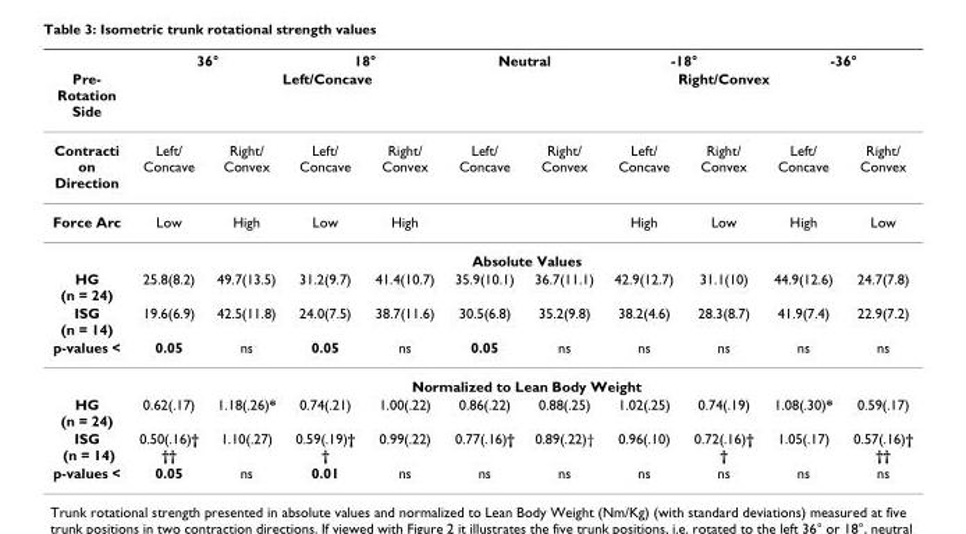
<table><thead><tr><td rowspan="3">Pre- Rotation Side Contracti on Direction</td><td colspan="2">36°</td><td colspan="2">18°</td><td colspan="2">Neutral</td><td colspan="2">-18°</td><td colspan="2">-36°</td></tr><tr><td colspan="5">Left/Concave</td><td colspan="5">Right/Convex</td></tr><tr><td>Left/ Concave</td><td>Right/ Convex</td><td>Left/ Concave</td><td>Right/ Convex</td><td>Left/ Concave</td><td>Right/ Convex</td><td>Left/ Concave</td><td>Right/ Convex</td><td>Left/ Concave</td><td>Right/ Convex</td></tr></thead><tbody><tr><td rowspan="2">Force Arc</td><td>Low</td><td>High</td><td>Low</td><td>High</td><td></td><td></td><td>High</td><td>Low</td><td>High</td><td>Low</td></tr><tr><td colspan="10">Absolute Values</td></tr><tr><td>HG (n = 24)</td><td>25.8(8.2)</td><td>49.7(13.5)</td><td>31.2(9.7)</td><td>41.4(10.7)</td><td>35.9(10.1)</td><td>36.7(11.1)</td><td>42.9(12.7)</td><td>31.1(10)</td><td>44.9(12.6)</td><td>24.7(7.8)</td></tr><tr><td>ISG (n = 14)</td><td>19.6(6.9)</td><td>42.5(11.8)</td><td>24.0(7.5)</td><td>38.7(11.6)</td><td>30.5(6.8)</td><td>35.2(9.8)</td><td>38.2(4.6)</td><td>28.3(8.7)</td><td>41.9(7.4)</td><td>22.9(7.2)</td></tr><tr><td rowspan="2">p-values &lt;</td><td>0.05</td><td>ns</td><td>0.05</td><td>ns</td><td>0.05</td><td>ns</td><td>ns</td><td>ns</td><td>ns</td><td>ns</td></tr><tr><td colspan="10">Normalized to Lean Body Weight</td></tr><tr><td>HG (n = 24)</td><td>0.62(.17)</td><td>1.18(.26)*</td><td>0.74(.21)</td><td>1.00(.22)</td><td>0.86(.22)</td><td>0.88(.25)</td><td>1.02(.25)</td><td>0.74(.19)</td><td>1.08(.30)*</td><td>0.59(.17)</td></tr><tr><td>ISG (n = 14)</td><td>0.50(.16)† ††</td><td>1.10(.27)</td><td>0.59(.19)† †</td><td>0.99(.22)</td><td>0.77(.16)†</td><td>0.89(.22)†</td><td>0.96(.10)</td><td>0.72(.16)† †</td><td>1.05(.17)</td><td>0.57(.16)† ††</td></tr><tr><td>p-values &lt;</td><td>0.05</td><td>ns</td><td>0.01</td><td>ns</td><td>ns</td><td>ns</td><td>ns</td><td>ns</td><td>ns</td><td>ns</td></tr></tbody></table>